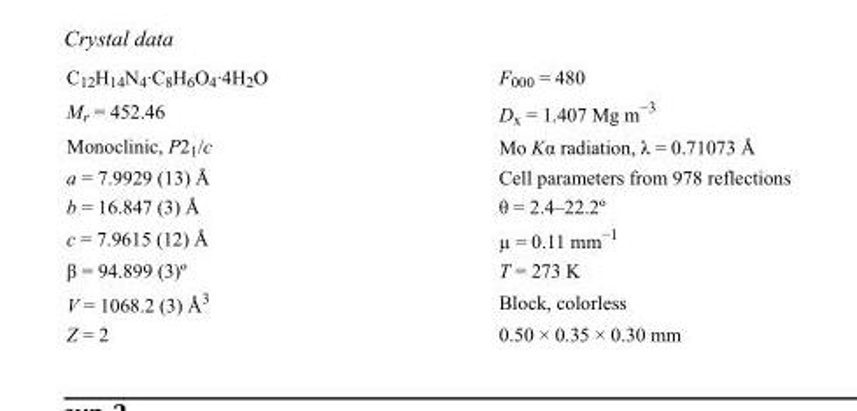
<table><tbody><tr><td>C<sub>12</sub>H<sub>14</sub>N<sub>4</sub>·C<sub>8</sub>H<sub>6</sub>O<sub>4</sub>·4H<sub>2</sub>O</td><td>F000 = 480</td></tr><tr><td>M<sub>r</sub> = 452.46</td><td>D<sub>x</sub> = 1.407 Mg m<sup>−3</sup></td></tr><tr><td>Monoclinic, P2<sub>1</sub>/c</td><td>Mo Kα radiation, λ = 0.71073 Å</td></tr><tr><td>a = 7.9929 (13) Å</td><td>Cell parameters from 978 reflections</td></tr><tr><td>b = 16.847 (3) Å</td><td>θ = 2.4–22.2º</td></tr><tr><td>c = 7.9615 (12) Å</td><td>µ = 0.11 mm<sup>−1</sup></td></tr><tr><td>β = 94.899 (3)º</td><td>T = 273 K</td></tr><tr><td>V = 1068.2 (3) Å<sup>3</sup></td><td>Block, colorless</td></tr><tr><td>Z = 2</td><td>0.50 × 0.35 × 0.30 mm</td></tr></tbody></table>